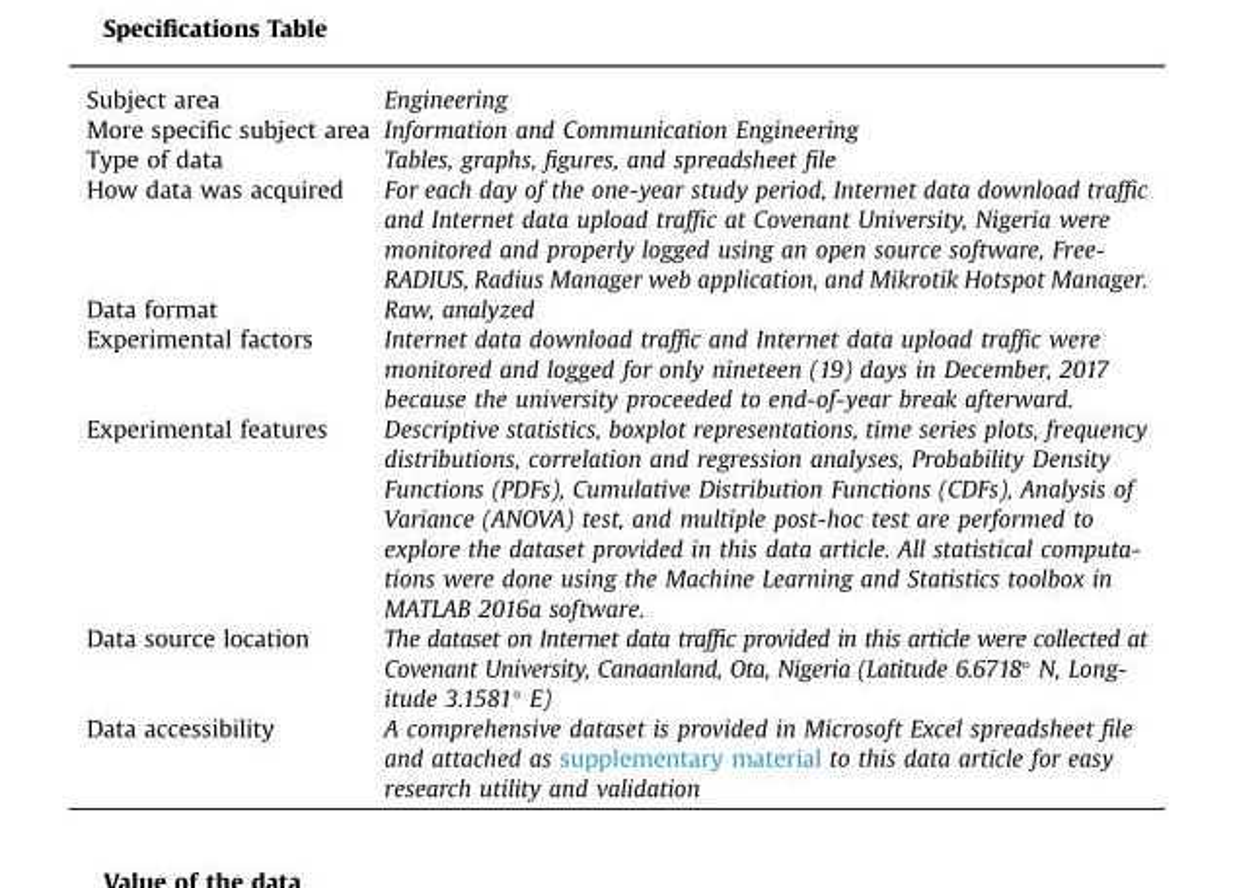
<table><tbody><tr><td>Subject area</td><td>Engineering</td></tr><tr><td>More specific subject area</td><td>Information and Communication Engineering</td></tr><tr><td>Type of data</td><td>Tables, graphs, figures, and spreadsheet file</td></tr><tr><td>How data was acquired</td><td>For each day of the one-year study period, Internet data download traffic and Internet data upload traffic at Covenant University, Nigeria were monitored and properly logged using an open source software, Free- RADIUS, Radius Manager web application, and Mikrotik Hotspot Manager.</td></tr><tr><td>Data format</td><td>Raw, analyzed</td></tr><tr><td>Experimental factors</td><td>Internet data download traffic and Internet data upload traffic were monitored and logged for only nineteen (19) days in December, 2017 because the university proceeded to end-of-year break afterward.</td></tr><tr><td>Experimental features</td><td>Descriptive statistics, boxplot representations, time series plots, frequency distributions, correlation and regression analyses, Probability Density Functions (PDFs), Cumulative Distribution Functions (CDFs), Analysis of Variance (ANOVA) test, and multiple post-hoc test are performed to explore the dataset provided in this data article. All statistical computa- tions were done using the Machine Learning and Statistics toolbox in MATLAB 2016a software.</td></tr><tr><td>Data source location</td><td>The dataset on Internet data traffic provided in this article were collected at Covenant University, Canaanland, Ota, Nigeria (Latitude 6.6718° N, Long- itude 3.1581° E)</td></tr><tr><td>Data accessibility</td><td>A comprehensive dataset is provided in Microsoft Excel spreadsheet file and attached as supplementary material to this data article for easy research utility and validation</td></tr></tbody></table>